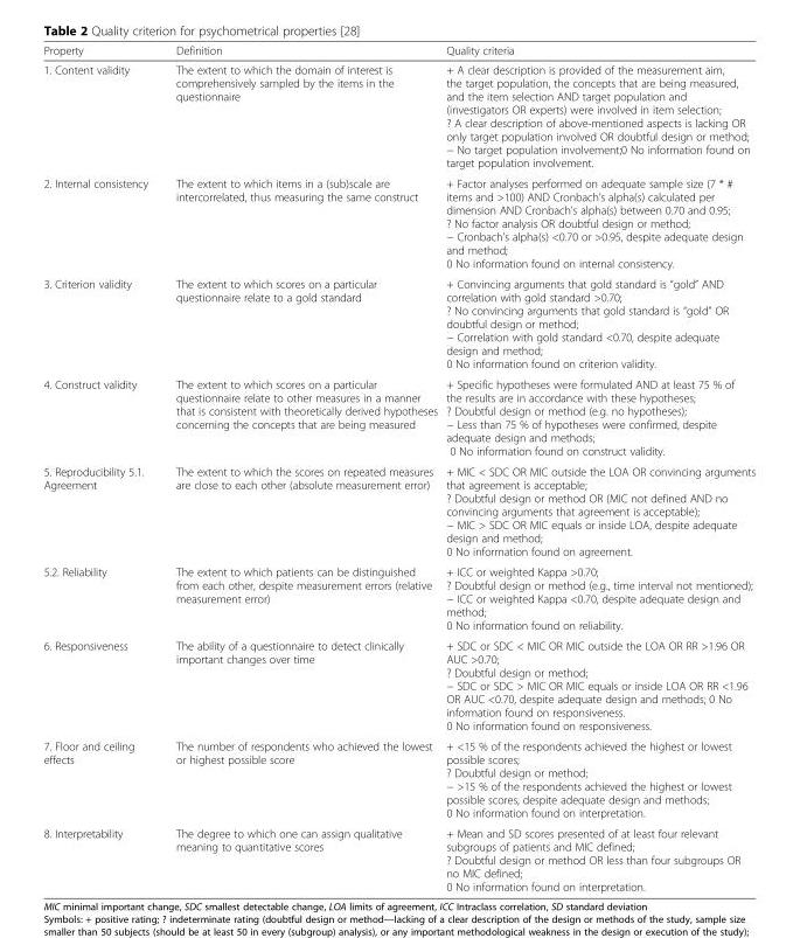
<table><thead><tr><td>Property</td><td>Definition</td><td>Quality criteria</td></tr></thead><tbody><tr><td>1. Content validity</td><td>The extent to which the domain of interest is comprehensively sampled by the items in the questionnaire</td><td>+ A clear description is provided of the measurement aim, the target population, the concepts that are being measured, and the item selection AND target population and (investigators OR experts) were involved in item selection; ? A clear description of above-mentioned aspects is lacking OR only target population involved OR doubtful design or method; − No target population involvement;0 No information found on target population involvement.</td></tr><tr><td>2. Internal consistency</td><td>The extent to which items in a (sub)scale are intercorrelated, thus measuring the same construct</td><td>+ Factor analyses performed on adequate sample size (7 * # items and &gt;100) AND Cronbach’s alpha(s) calculated per dimension AND Cronbach’s alpha(s) between 0.70 and 0.95; ? No factor analysis OR doubtful design or method; − Cronbach’s alpha(s) &lt;0.70 or &gt;0.95, despite adequate design and method; 0 No information found on internal consistency.</td></tr><tr><td>3. Criterion validity</td><td>The extent to which scores on a particular questionnaire relate to a gold standard</td><td>+ Convincing arguments that gold standard is “gold” AND correlation with gold standard &gt;0.70; ? No convincing arguments that gold standard is “gold” OR doubtful design or method; − Correlation with gold standard &lt;0.70, despite adequate design and method; 0 No information found on criterion validity.</td></tr><tr><td>4. Construct validity</td><td>The extent to which scores on a particular questionnaire relate to other measures in a manner that is consistent with theoretically derived hypotheses concerning the concepts that are being measured</td><td>+ Specific hypotheses were formulated AND at least 75 % of the results are in accordance with these hypotheses; ? Doubtful design or method (e.g. no hypotheses); − Less than 75 % of hypotheses were confirmed, despite adequate design and methods; 0 No information found on construct validity.</td></tr><tr><td>5. Reproducibility 5.1. Agreement</td><td>The extent to which the scores on repeated measures are close to each other (absolute measurement error)</td><td>+ MIC &lt; SDC OR MIC outside the LOA OR convincing arguments that agreement is acceptable; ? Doubtful design or method OR (MIC not defined AND no convincing arguments that agreement is acceptable); − MIC &gt; SDC OR MIC equals or inside LOA, despite adequate design and method; 0 No information found on agreement.</td></tr><tr><td>5.2. Reliability</td><td>The extent to which patients can be distinguished from each other, despite measurement errors (relative measurement error)</td><td>+ ICC or weighted Kappa &gt;0.70; ? Doubtful design or method (e.g., time interval not mentioned); − ICC or weighted Kappa &lt;0.70, despite adequate design and method; 0 No information found on reliability.</td></tr><tr><td>6. Responsiveness</td><td>The ability of a questionnaire to detect clinically important changes over time</td><td>+ SDC or SDC &lt; MIC OR MIC outside the LOA OR RR &gt;1.96 OR AUC &gt;0.70; ? Doubtful design or method; − SDC or SDC &gt; MIC OR MIC equals or inside LOA OR RR &lt;1.96 OR AUC &lt;0.70, despite adequate design and methods; 0 No information found on responsiveness. 0 No information found on responsiveness.</td></tr><tr><td>7. Floor and ceiling effects</td><td>The number of respondents who achieved the lowest or highest possible score</td><td>+ &lt;15 % of the respondents achieved the highest or lowest possible scores; ? Doubtful design or method; − &gt;15 % of the respondents achieved the highest or lowest possible scores, despite adequate design and methods; 0 No information found on interpretation.</td></tr><tr><td>8. Interpretability</td><td>The degree to which one can assign qualitative meaning to quantitative scores</td><td>+ Mean and SD scores presented of at least four relevant subgroups of patients and MIC defined; ? Doubtful design or method OR less than four subgroups OR no MIC defined; 0 No information found on interpretation.</td></tr></tbody></table>